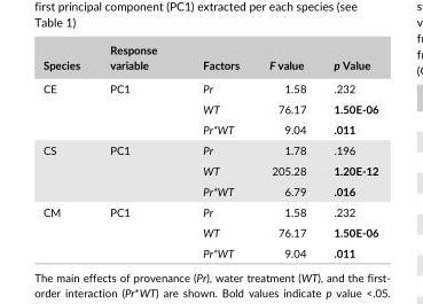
<table><thead><tr><td>Species</td><td>Response variable</td><td>Factors</td><td>F value</td><td>p Value</td></tr></thead><tbody><tr><td rowspan="3">CE</td><td rowspan="3">PC1</td><td>Pr</td><td>1.58</td><td>.232</td></tr><tr><td>WT</td><td>76.17</td><td>1.50E-06</td></tr><tr><td>Pr*WT</td><td>9.04</td><td>.011</td></tr><tr><td rowspan="3">CS</td><td rowspan="3">PC1</td><td>Pr</td><td>1.78</td><td>.196</td></tr><tr><td>WT</td><td>205.28</td><td>1.20E-12</td></tr><tr><td>Pr*WT</td><td>6.79</td><td>.016</td></tr><tr><td rowspan="3">CM</td><td rowspan="3">PC1</td><td>Pr</td><td>1.58</td><td>.232</td></tr><tr><td>WT</td><td>76.17</td><td>1.50E-06</td></tr><tr><td>Pr*WT</td><td>9.04</td><td>.011</td></tr></tbody></table>